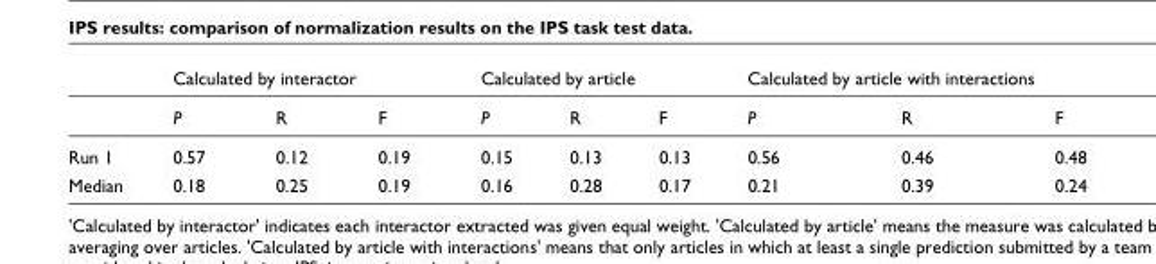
<table><thead><tr><td rowspan="2"></td><td colspan="3">Calculated by interactor</td><td colspan="3">Calculated by article</td><td colspan="3">Calculated by article with interactions</td></tr><tr><td>P</td><td>R</td><td>F</td><td>P</td><td>R</td><td>F</td><td>P</td><td>R</td><td>F</td></tr></thead><tbody><tr><td>Run 1</td><td>0.57</td><td>0.12</td><td>0.19</td><td>0.15</td><td>0.13</td><td>0.13</td><td>0.56</td><td>0.46</td><td>0.48</td></tr><tr><td>Median</td><td>0.18</td><td>0.25</td><td>0.19</td><td>0.16</td><td>0.28</td><td>0.17</td><td>0.21</td><td>0.39</td><td>0.24</td></tr></tbody></table>